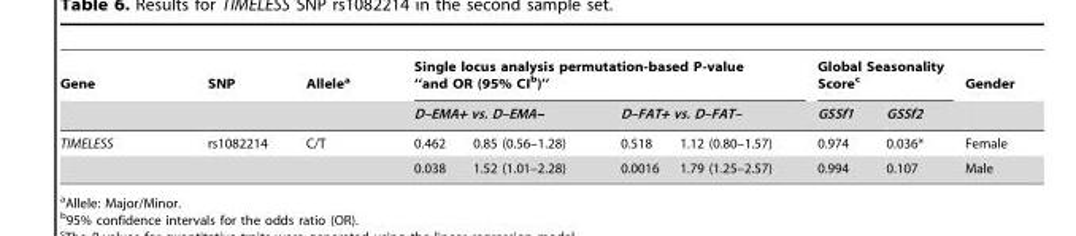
<table><thead><tr><td rowspan="3">Gene TIMELESS</td><td rowspan="3">SNP rs1082214</td><td rowspan="3">Allele<sup>a</sup> C/T</td><td colspan="4">Single locus analysis permutation-based P-value ‘‘and OR (95% CIb)’’</td><td colspan="2">Global Seasonality Score<sup>c</sup></td><td rowspan="3">Gender Female</td></tr><tr><td colspan="2">D–EMA+ vs. D–EMA––</td><td colspan="2">D–FAT+ vs. D–FAT–</td><td rowspan="2">GSSf1 0.974</td><td rowspan="2">GSSf2 0.036*</td></tr><tr><td>0.462</td><td>0.85 (0.56–1.28)</td><td>0.518</td><td>1.12 (0.80–1.57)</td></tr></thead><tbody><tr><td></td><td></td><td></td><td>0.038</td><td>1.52 (1.01–2.28)</td><td>0.0016</td><td>1.79 (1.25–2.57)</td><td>0.994</td><td>0.107</td><td>Male</td></tr></tbody></table>